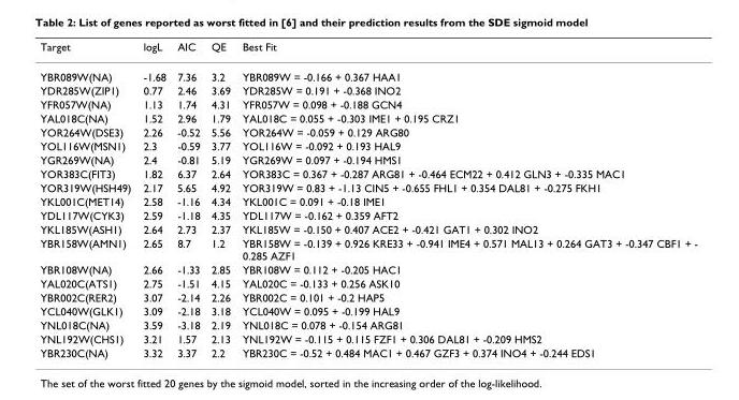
<table><thead><tr><td>Target</td><td>logL</td><td>AIC</td><td>QE</td><td>Best Fit</td></tr></thead><tbody><tr><td>YBR089W(NA)</td><td>-1.68</td><td>7.36</td><td>3.2</td><td>YBR089W = -0.166 + 0.367 HAA1</td></tr><tr><td>YDR285W(ZIP1)</td><td>0.77</td><td>2.46</td><td>3.69</td><td>YDR285W = 0.191 + -0.368 INO2</td></tr><tr><td>YFR057W(NA)</td><td>1.13</td><td>1.74</td><td>4.31</td><td>YFR057W = 0.098 + -0.188 GCN4</td></tr><tr><td>YAL018C(NA)</td><td>1.52</td><td>2.96</td><td>1.79</td><td>YAL018C = 0.055 + -0.303 IME1 + 0.195 CRZ1</td></tr><tr><td>YOR264W(DSE3)</td><td>2.26</td><td>-0.52</td><td>5.56</td><td>YOR264W = -0.059 + 0.129 ARG80</td></tr><tr><td>YOL116W(MSN1)</td><td>2.3</td><td>-0.59</td><td>3.77</td><td>YOL116W = -0.092 + 0.193 HAL9</td></tr><tr><td>YGR269W(NA)</td><td>2.4</td><td>-0.81</td><td>5.19</td><td>YGR269W = 0.097 + -0.194 HMS1</td></tr><tr><td>YOR383C(FIT3)</td><td>1.82</td><td>6.37</td><td>2.64</td><td>YOR383C = 0.367 + -0.287 ARG81 + -0.464 ECM22 + 0.412 GLN3 + -0.335 MAC1</td></tr><tr><td>YOR319W(HSH49)</td><td>2.17</td><td>5.65</td><td>4.92</td><td>YOR319W = 0.83 + -1.13 CIN5 + -0.655 FHL1 + 0.354 DAL81 + -0.275 FKH1</td></tr><tr><td>YKL001C(MET14)</td><td>2.58</td><td>-1.16</td><td>4.34</td><td>YKL001C = 0.091 + -0.18 IME1</td></tr><tr><td>YDL117W(CYK3)</td><td>2.59</td><td>-1.18</td><td>4.35</td><td>YDL117W = -0.162 + 0.359 AFT2</td></tr><tr><td>YKL185W(ASH1)</td><td>2.64</td><td>2.73</td><td>2.37</td><td>YKL185W = -0.150 + 0.407 ACE2 + -0.421 GAT1 + 0.302 INO2</td></tr><tr><td>YBR158W(AMN1)</td><td>2.65</td><td>8.7</td><td>1.2</td><td>YBR158W = -0.139 + 0.926 KRE33 + -0.941 IME4 + 0.571 MAL13 + 0.264 GAT3 + -0.347 CBF1 + - 0.285 AZF1</td></tr><tr><td>YBR108W(NA)</td><td>2.66</td><td>-1.33</td><td>2.85</td><td>YBR108W = 0.112 + -0.205 HAC1</td></tr><tr><td>YAL020C(ATS1)</td><td>2.75</td><td>-1.51</td><td>4.15</td><td>YAL020C = -0.133 + 0.256 ASK10</td></tr><tr><td>YBR002C(RER2)</td><td>3.07</td><td>-2.14</td><td>2.26</td><td>YBR002C = 0.101 + -0.2 HAP5</td></tr><tr><td>YCL040W(GLK1)</td><td>3.09</td><td>-2.18</td><td>3.18</td><td>YCL040W = 0.095 + -0.199 HAL9</td></tr><tr><td>YNL018C(NA)</td><td>3.59</td><td>-3.18</td><td>2.19</td><td>YNL018C = 0.078 + -0.154 ARG81</td></tr><tr><td>YNL192W(CHS1)</td><td>3.21</td><td>1.57</td><td>2.13</td><td>YNL192W = -0.115 + 0.115 FZF1 + 0.306 DAL81 + -0.209 HMS2</td></tr><tr><td>YBR230C(NA)</td><td>3.32</td><td>3.37</td><td>2.2</td><td>YBR230C = -0.52 + 0.484 MAC1 + 0.467 GZF3 + 0.374 INO4 + -0.244 EDS1</td></tr></tbody></table>